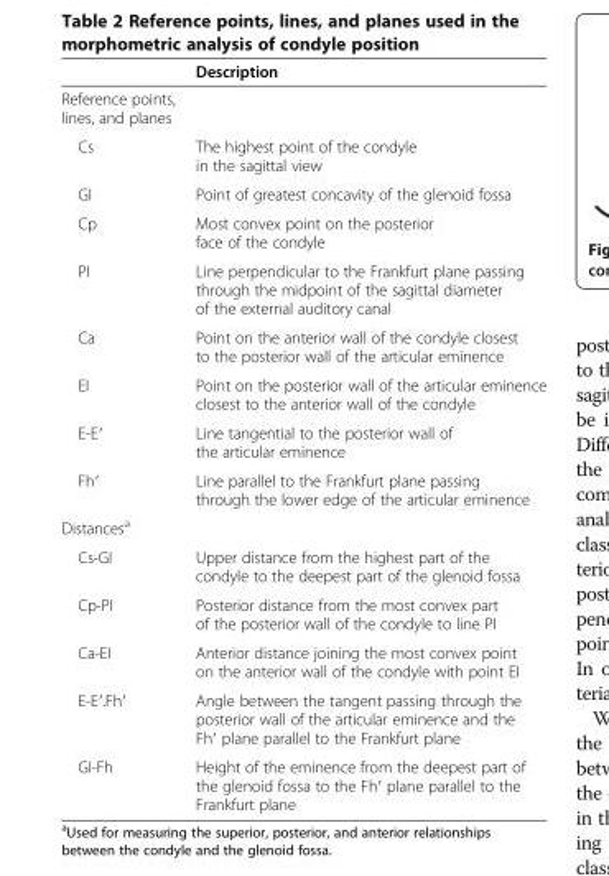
<table><thead><tr><td></td><td>Description</td></tr></thead><tbody><tr><td colspan="2">Reference points, lines, and planes</td></tr><tr><td>Cs</td><td>The highest point of the condyle in the sagittal view</td></tr><tr><td>GI</td><td>Point of greatest concavity of the glenoid fossa</td></tr><tr><td>Cp</td><td>Most convex point on the posterior face of the condyle</td></tr><tr><td>PI</td><td>Line perpendicular to the Frankfurt plane passing through the midpoint of the sagittal diameter of the external auditory canal</td></tr><tr><td>Ca</td><td>Point on the anterior wall of the condyle closest to the posterior wall of the articular eminence</td></tr><tr><td>EI</td><td>Point on the posterior wall of the articular eminence closest to the anterior wall of the condyle</td></tr><tr><td>E-E′</td><td>Line tangential to the posterior wall of the articular eminence</td></tr><tr><td>Fh′</td><td>Line parallel to the Frankfurt plane passing through the lower edge of the articular eminence</td></tr><tr><td colspan="2">Distances<sup>a</sup></td></tr><tr><td>Cs-GI</td><td>Upper distance from the highest part of the condyle to the deepest part of the glenoid fossa</td></tr><tr><td>Cp-PI</td><td>Posterior distance from the most convex part of the posterior wall of the condyle to line PI</td></tr><tr><td>Ca-EI</td><td>Anterior distance joining the most convex point on the anterior wall of the condyle with point EI</td></tr><tr><td>E-E′.Fh′</td><td>Angle between the tangent passing through the posterior wall of the articular eminence and the Fh′ plane parallel to the Frankfurt plane</td></tr><tr><td>GI-Fh</td><td>Height of the eminence from the deepest part of the glenoid fossa to the Fh′ plane parallel to the Frankfurt plane</td></tr></tbody></table>